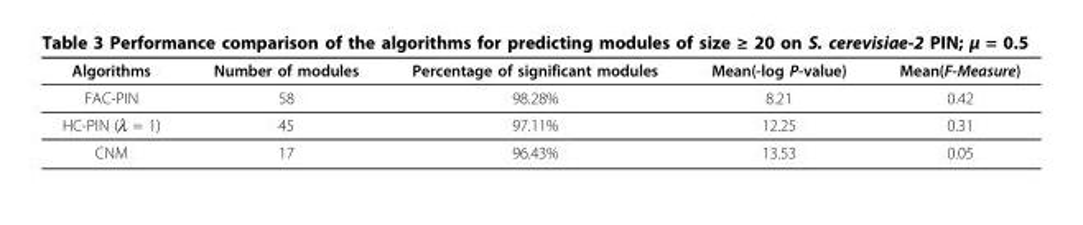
<table><thead><tr><td>Algorithms</td><td>Number of modules</td><td>Percentage of significant modules</td><td>Mean(-log P-value)</td><td>Mean(F-Measure)</td></tr></thead><tbody><tr><td>FAC-PIN</td><td>58</td><td>98.28%</td><td>8.21</td><td>0.42</td></tr><tr><td>HC-PIN (λ = 1)</td><td>45</td><td>97.11%</td><td>12.25</td><td>0.31</td></tr><tr><td>CNM</td><td>17</td><td>96.43%</td><td>13.53</td><td>0.05</td></tr></tbody></table>